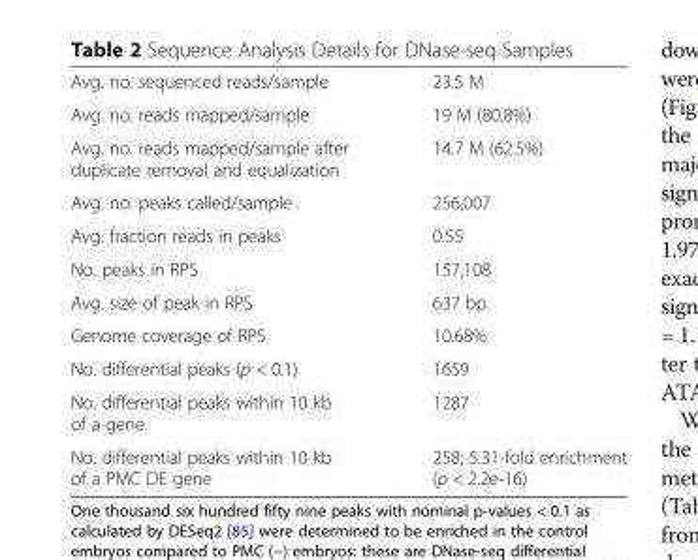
<table><tbody><tr><td>Avg. no. sequenced reads/sample</td><td>23.5 M</td></tr><tr><td>Avg. no. reads mapped/sample</td><td>19 M (80.8%)</td></tr><tr><td>Avg. no. reads mapped/sample after duplicate removal and equalization</td><td>14.7 M (62.5%)</td></tr><tr><td>Avg. no. peaks called/sample</td><td>256,007</td></tr><tr><td>Avg. fraction reads in peaks</td><td>0.55</td></tr><tr><td>No. peaks in RPS</td><td>157,108</td></tr><tr><td>Avg. size of peak in RPS</td><td>637 bp</td></tr><tr><td>Genome coverage of RPS</td><td>10.68%</td></tr><tr><td>No. differential peaks (p &lt; 0.1)</td><td>1659</td></tr><tr><td>No. differential peaks within 10 kb of a gene</td><td>1287</td></tr><tr><td>No. differential peaks within 10 kb of a PMC DE gene</td><td>258; 5.31-fold enrichment (p &lt; 2.2e-16)</td></tr></tbody></table>